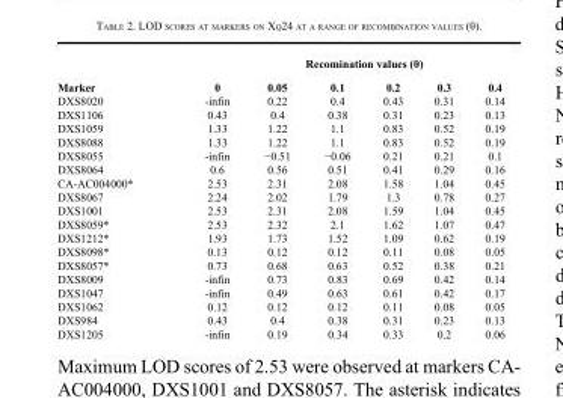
<table><thead><tr><td rowspan="2">Marker</td><td colspan="6">Recomination values (θ)</td></tr><tr><td>0</td><td>0.05</td><td>0.1</td><td>0.2</td><td>0.3</td><td>0.4</td></tr></thead><tbody><tr><td>DXS8020</td><td>-infin</td><td>0.22</td><td>0.4</td><td>0.43</td><td>0.31</td><td>0.14</td></tr><tr><td>DXS1106</td><td>0.43</td><td>0.4</td><td>0.38</td><td>0.31</td><td>0.23</td><td>0.13</td></tr><tr><td>DXS1059</td><td>1.33</td><td>1.22</td><td>1.1</td><td>0.83</td><td>0.52</td><td>0.19</td></tr><tr><td>DXS8088</td><td>1.33</td><td>1.22</td><td>1.1</td><td>0.83</td><td>0.52</td><td>0.19</td></tr><tr><td>DXS8055</td><td>-infin</td><td>−0.51</td><td>−0.06</td><td>0.21</td><td>0.21</td><td>0.1</td></tr><tr><td>DXS8064</td><td>0.6</td><td>0.56</td><td>0.51</td><td>0.41</td><td>0.29</td><td>0.16</td></tr><tr><td>CA-AC004000*</td><td>2.53</td><td>2.31</td><td>2.08</td><td>1.58</td><td>1.04</td><td>0.45</td></tr><tr><td>DXS8067</td><td>2.24</td><td>2.02</td><td>1.79</td><td>1.3</td><td>0.78</td><td>0.27</td></tr><tr><td>DXS1001</td><td>2.53</td><td>2.31</td><td>2.08</td><td>1.59</td><td>1.04</td><td>0.45</td></tr><tr><td>DXS8059*</td><td>2.53</td><td>2.32</td><td>2.1</td><td>1.62</td><td>1.07</td><td>0.47</td></tr><tr><td>DXS1212*</td><td>1.93</td><td>1.73</td><td>1.52</td><td>1.09</td><td>0.62</td><td>0.19</td></tr><tr><td>DXS8098*</td><td>0.13</td><td>0.12</td><td>0.12</td><td>0.11</td><td>0.08</td><td>0.05</td></tr><tr><td>DXS8057*</td><td>0.73</td><td>0.68</td><td>0.63</td><td>0.52</td><td>0.38</td><td>0.21</td></tr><tr><td>DXS8009</td><td>-infin</td><td>0.73</td><td>0.83</td><td>0.69</td><td>0.42</td><td>0.14</td></tr><tr><td>DXS1047</td><td>-infin</td><td>0.49</td><td>0.63</td><td>0.61</td><td>0.42</td><td>0.17</td></tr><tr><td>DXS1062</td><td>0.12</td><td>0.12</td><td>0.12</td><td>0.11</td><td>0.08</td><td>0.05</td></tr><tr><td>DXS984</td><td>0.43</td><td>0.4</td><td>0.38</td><td>0.31</td><td>0.23</td><td>0.13</td></tr><tr><td>DXS1205</td><td>-infin</td><td>0.19</td><td>0.34</td><td>0.33</td><td>0.2</td><td>0.06</td></tr></tbody></table>